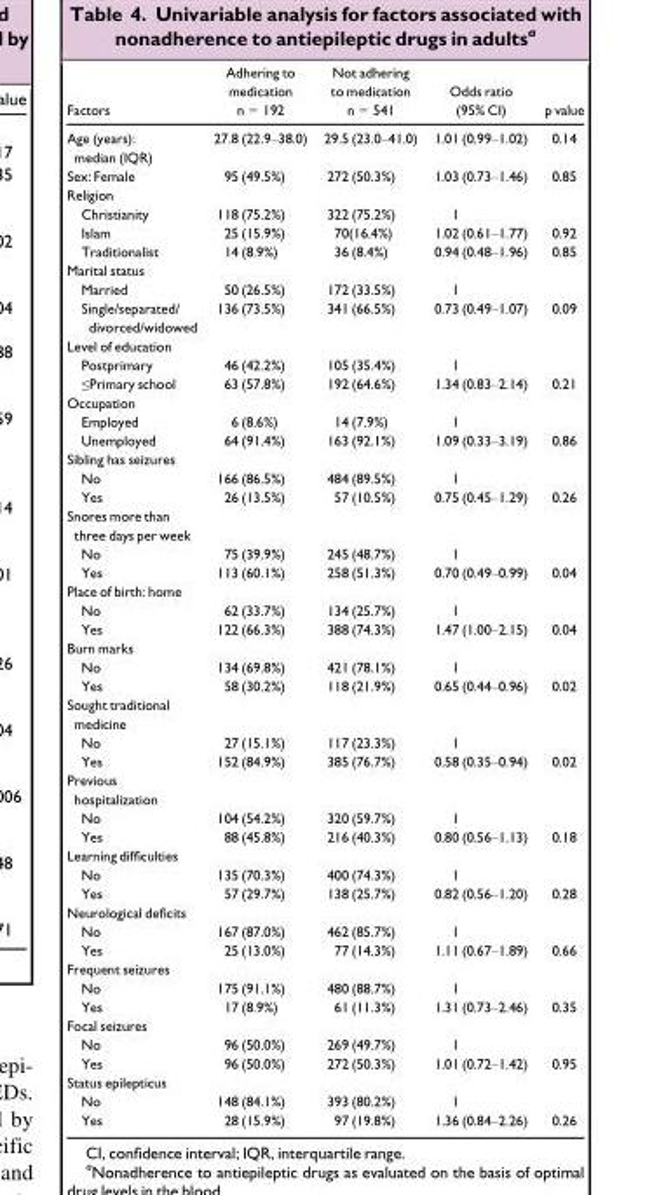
<table><thead><tr><td>Factors</td><td>Adhering to medication n = 192</td><td>Not adhering to medication n = 541</td><td>Odds ratio (95% CI)</td><td>p value</td></tr></thead><tbody><tr><td>Age (years): median (IQR)</td><td>27.8 (22.9–38.0)</td><td>29.5 (23.0–41.0)</td><td>1.01 (0.99–1.02)</td><td>0.14</td></tr><tr><td>Sex: Female</td><td>95 (49.5%)</td><td>272 (50.3%)</td><td>1.03 (0.73–1.46)</td><td>0.85</td></tr><tr><td colspan="5">Religion</td></tr><tr><td>Christianity</td><td>118 (75.2%)</td><td>322 (75.2%)</td><td>1</td><td></td></tr><tr><td>Islam</td><td>25 (15.9%)</td><td>70(16.4%)</td><td>1.02 (0.61–1.77)</td><td>0.92</td></tr><tr><td>Traditionalist</td><td>14 (8.9%)</td><td>36 (8.4%)</td><td>0.94 (0.48–1.96)</td><td>0.85</td></tr><tr><td colspan="5">Marital status</td></tr><tr><td>Married</td><td>50 (26.5%)</td><td>172 (33.5%)</td><td>1</td><td></td></tr><tr><td>Single/separated/ divorced/widowed</td><td>136 (73.5%)</td><td>341 (66.5%)</td><td>0.73 (0.49–1.07)</td><td>0.09</td></tr><tr><td colspan="5">Level of education</td></tr><tr><td>Postprimary</td><td>46 (42.2%)</td><td>105 (35.4%)</td><td>1</td><td></td></tr><tr><td>≤Primary school</td><td>63 (57.8%)</td><td>192 (64.6%)</td><td>1.34 (0.83–2.14)</td><td>0.21</td></tr><tr><td colspan="5">Occupation</td></tr><tr><td>Employed</td><td>6 (8.6%)</td><td>14 (7.9%)</td><td>1</td><td></td></tr><tr><td>Unemployed</td><td>64 (91.4%)</td><td>163 (92.1%)</td><td>1.09 (0.33–3.19)</td><td>0.86</td></tr><tr><td colspan="5">Sibling has seizures</td></tr><tr><td>No</td><td>166 (86.5%)</td><td>484 (89.5%)</td><td>1</td><td></td></tr><tr><td>Yes</td><td>26 (13.5%)</td><td>57 (10.5%)</td><td>0.75 (0.45–1.29)</td><td>0.26</td></tr><tr><td colspan="5">Snores more than three days per week</td></tr><tr><td>No</td><td>75 (39.9%)</td><td>245 (48.7%)</td><td>1</td><td></td></tr><tr><td>Yes</td><td>113 (60.1%)</td><td>258 (51.3%)</td><td>0.70 (0.49–0.99)</td><td>0.04</td></tr><tr><td colspan="5">Place of birth: home</td></tr><tr><td>No</td><td>62 (33.7%)</td><td>134 (25.7%)</td><td>1</td><td></td></tr><tr><td>Yes</td><td>122 (66.3%)</td><td>388 (74.3%)</td><td>1.47 (1.00–2.15)</td><td>0.04</td></tr><tr><td colspan="5">Burn marks</td></tr><tr><td>No</td><td>134 (69.8%)</td><td>421 (78.1%)</td><td>1</td><td></td></tr><tr><td>Yes</td><td>58 (30.2%)</td><td>118 (21.9%)</td><td>0.65 (0.44–0.96)</td><td>0.02</td></tr><tr><td colspan="5">Sought traditional medicine</td></tr><tr><td>No</td><td>27 (15.1%)</td><td>117 (23.3%)</td><td>1</td><td></td></tr><tr><td>Yes</td><td>152 (84.9%)</td><td>385 (76.7%)</td><td>0.58 (0.35–0.94)</td><td>0.02</td></tr><tr><td colspan="5">Previous hospitalization</td></tr><tr><td>No</td><td>104 (54.2%)</td><td>320 (59.7%)</td><td>1</td><td></td></tr><tr><td>Yes</td><td>88 (45.8%)</td><td>216 (40.3%)</td><td>0.80 (0.56–1.13)</td><td>0.18</td></tr><tr><td colspan="5">Learning difficulties</td></tr><tr><td>No</td><td>135 (70.3%)</td><td>400 (74.3%)</td><td>1</td><td></td></tr><tr><td>Yes</td><td>57 (29.7%)</td><td>138 (25.7%)</td><td>0.82 (0.56–1.20)</td><td>0.28</td></tr><tr><td colspan="5">Neurological deficits</td></tr><tr><td>No</td><td>167 (87.0%)</td><td>462 (85.7%)</td><td>1</td><td></td></tr><tr><td>Yes</td><td>25 (13.0%)</td><td>77 (14.3%)</td><td>1.11 (0.67–1.89)</td><td>0.66</td></tr><tr><td colspan="5">Frequent seizures</td></tr><tr><td>No</td><td>175 (91.1%)</td><td>480 (88.7%)</td><td>1</td><td></td></tr><tr><td>Yes</td><td>17 (8.9%)</td><td>61 (11.3%)</td><td>1.31 (0.73–2.46)</td><td>0.35</td></tr><tr><td colspan="5">Focal seizures</td></tr><tr><td>No</td><td>96 (50.0%)</td><td>269 (49.7%)</td><td>1</td><td></td></tr><tr><td>Yes</td><td>96 (50.0%)</td><td>272 (50.3%)</td><td>1.01 (0.72–1.42)</td><td>0.95</td></tr><tr><td colspan="5">Status epilepticus</td></tr><tr><td>No</td><td>148 (84.1%)</td><td>393 (80.2%)</td><td>1</td><td></td></tr><tr><td>Yes</td><td>28 (15.9%)</td><td>97 (19.8%)</td><td>1.36 (0.84–2.26)</td><td>0.26</td></tr></tbody></table>